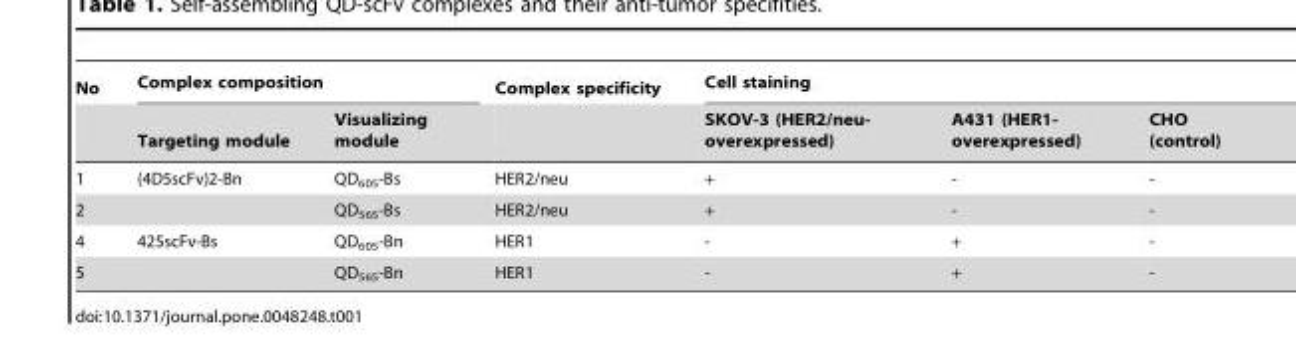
<table><thead><tr><td rowspan="2">No</td><td colspan="2">Complex composition</td><td rowspan="2">Complex specificity</td><td colspan="3">Cell staining</td></tr><tr><td>Targeting module</td><td>Visualizing module</td><td>SKOV-3 (HER2/neu- overexpressed)</td><td>A431 (HER1- overexpressed)</td><td>CHO (control)</td></tr></thead><tbody><tr><td>1</td><td>(4D5scFv)2-Bn</td><td>QD<sub>605</sub>-Bs</td><td>HER2/neu</td><td>+</td><td>-</td><td>-</td></tr><tr><td>2</td><td></td><td>QD<sub>565</sub>-Bs</td><td>HER2/neu</td><td>+</td><td>-</td><td>-</td></tr><tr><td>4</td><td>425scFv-Bs</td><td>QD<sub>605</sub>-Bn</td><td>HER1</td><td>-</td><td>+</td><td>-</td></tr><tr><td>5</td><td></td><td>QD<sub>565</sub>-Bn</td><td>HER1</td><td>-</td><td>+</td><td>-</td></tr></tbody></table>